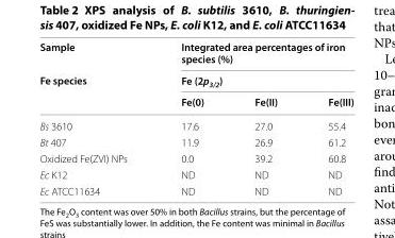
<table><thead><tr><td rowspan="3">Sample Fe species</td><td rowspan="2" colspan="3">Integrated area percentages of iron species (%) Fe (2p<sub>3/2</sub>)</td></tr><tr></tr><tr><td>Fe(0)</td><td>Fe(II)</td><td>Fe(III)</td></tr></thead><tbody><tr><td>Bs 3610</td><td>17.6</td><td>27.0</td><td>55.4</td></tr><tr><td>Bt 407</td><td>11.9</td><td>26.9</td><td>61.2</td></tr><tr><td>Oxidized Fe(ZVI) NPs</td><td>0.0</td><td>39.2</td><td>60.8</td></tr><tr><td>Ec K12</td><td>ND</td><td>ND</td><td>ND</td></tr><tr><td>Ec ATCC11634</td><td>ND</td><td>ND</td><td>ND</td></tr></tbody></table>